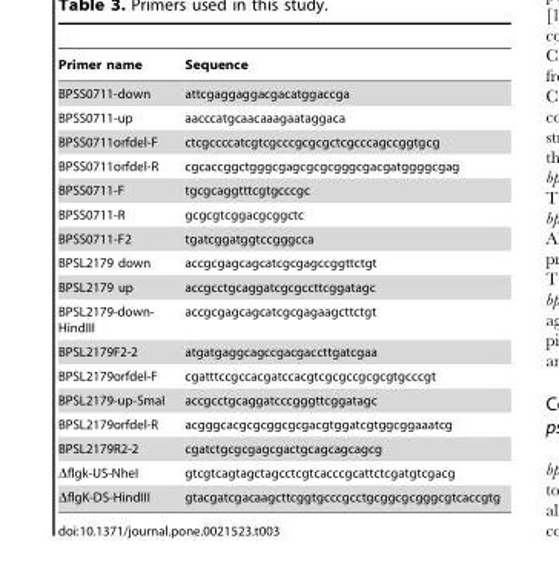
<table><thead><tr><td>Primer name</td><td>Sequence</td></tr></thead><tbody><tr><td>BPSS0711-down</td><td>attcgaggaggacgacatggaccga</td></tr><tr><td>BPSS0711-up</td><td>aacccatgcaacaaagaataggaca</td></tr><tr><td>BPSS0711orfdel-F</td><td>ctcgccccatcgtcgcccgcgcgctcgcccagccggtgcg</td></tr><tr><td>BPSS0711orfdel-R</td><td>cgcaccggctgggcgagcgcgcgggcgacgatggggcgag</td></tr><tr><td>BPSS0711-F</td><td>tgcgcaggtttcgtgcccgc</td></tr><tr><td>BPSS0711-R</td><td>gcgcgtcggacgcggctc</td></tr><tr><td>BPSS0711-F2</td><td>tgatcggatggtccgggcca</td></tr><tr><td>BPSL2179 down</td><td>accgcgagcagcatcgcgagccggttctgt</td></tr><tr><td>BPSL2179 up</td><td>accgcctgcaggatcgcgccttcggatagc</td></tr><tr><td>BPSL2179-down- HindIII</td><td>accgcgagcagcatcgcgagaagcttctgt</td></tr><tr><td>BPSL2179F2-2</td><td>atgatgaggcagccgacgaccttgatcgaa</td></tr><tr><td>BPSL2179orfdel-F</td><td>cgatttccgccacgatccacgtcgcgccgcgcgtgcccgt</td></tr><tr><td>BPSL2179-up-SmaI</td><td>accgcctgcaggatcccgggttcggatagc</td></tr><tr><td>BPSL2179orfdel-R</td><td>acgggcacgcgcggcgcgacgtggatcgtggcggaaatcg</td></tr><tr><td>BPSL2179R2-2</td><td>cgatctgcgcgagcgactgcagcagcagcg</td></tr><tr><td>Δflgk-US-NheI</td><td>gtcgtcagtagctagcctcgtcacccgcattctcgatgtcgacg</td></tr><tr><td>ΔflgK-DS-HindIII</td><td>gtacgatcgacaagcttcggtgcccgcctgcggcgcgggcgtcaccgtg</td></tr></tbody></table>